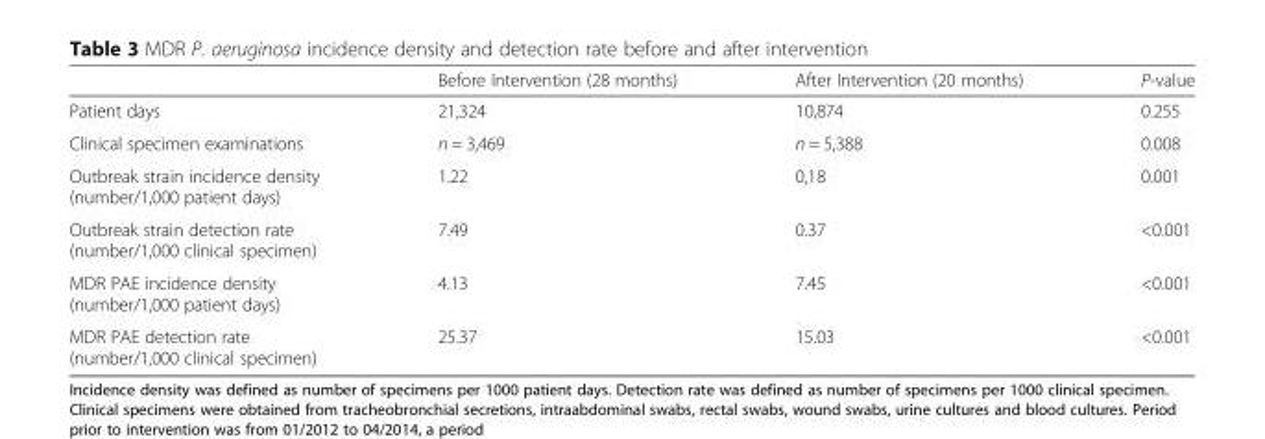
<table><thead><tr><td></td><td>Before Intervention (28 months)</td><td>After Intervention (20 months)</td><td>P-value</td></tr></thead><tbody><tr><td>Patient days</td><td>21,324</td><td>10,874</td><td>0.255</td></tr><tr><td>Clinical specimen examinations</td><td>n = 3,469</td><td>n = 5,388</td><td>0.008</td></tr><tr><td>Outbreak strain incidence density (number/1,000 patient days)</td><td>1.22</td><td>0,18</td><td>0.001</td></tr><tr><td>Outbreak strain detection rate (number/1,000 clinical specimen)</td><td>7.49</td><td>0.37</td><td>&lt;0.001</td></tr><tr><td>MDR PAE incidence density (number/1,000 patient days)</td><td>4.13</td><td>7.45</td><td>&lt;0.001</td></tr><tr><td>MDR PAE detection rate (number/1,000 clinical specimen)</td><td>25.37</td><td>15.03</td><td>&lt;0.001</td></tr></tbody></table>